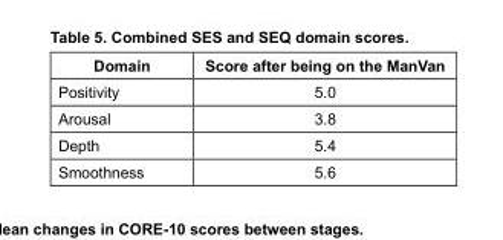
<table><thead><tr><td>Domain</td><td>Score after being on the ManVan</td></tr></thead><tbody><tr><td>Positivity</td><td>5.0</td></tr><tr><td>Arousal</td><td>3.8</td></tr><tr><td>Depth</td><td>5.4</td></tr><tr><td>Smoothness</td><td>5.6</td></tr></tbody></table>